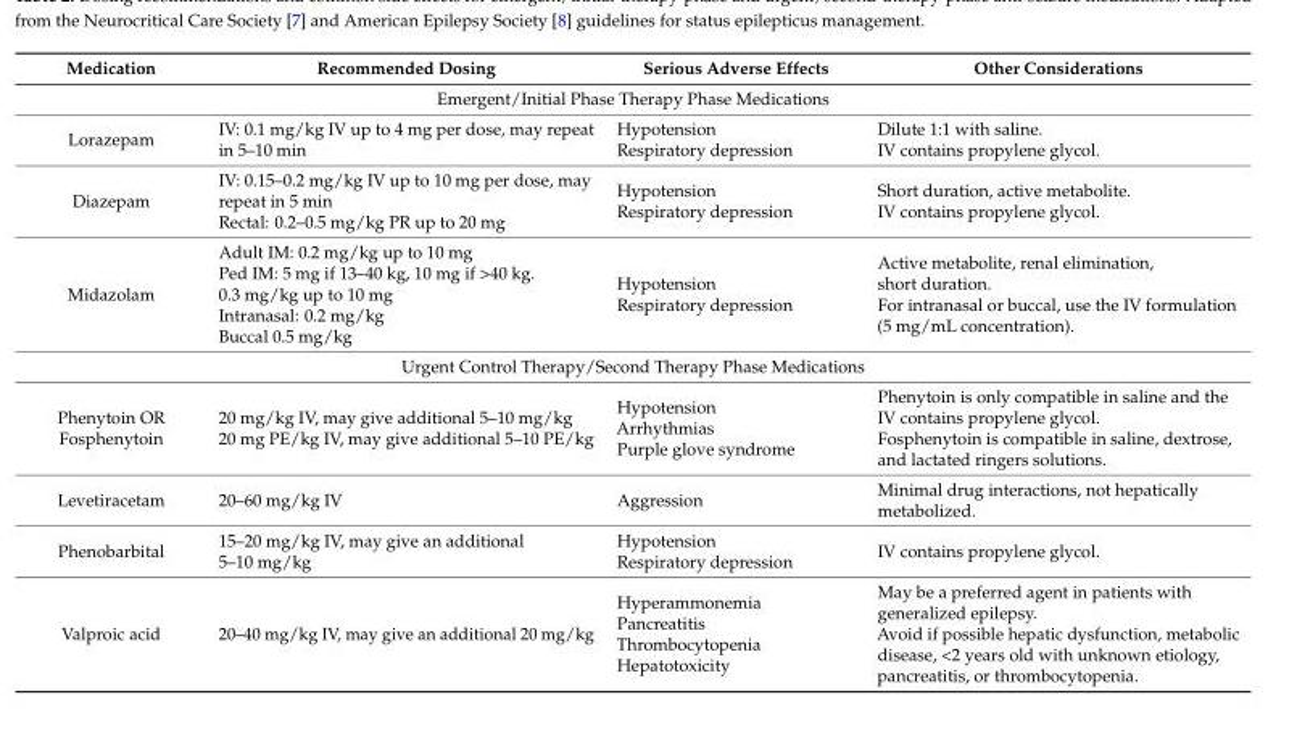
<table><thead><tr><td>Medication</td><td>Recommended Dosing</td><td>Serious Adverse Effects</td><td>Other Considerations</td></tr></thead><tbody><tr><td colspan="4">Emergent/Initial Phase Therapy Phase Medications</td></tr><tr><td>Lorazepam</td><td>IV: 0.1 mg/kg IV up to 4 mg per dose, may repeat in 5–10 min</td><td>Hypotension Respiratory depression</td><td>Dilute 1:1 with saline. IV contains propylene glycol.</td></tr><tr><td>Diazepam</td><td>IV: 0.15–0.2 mg/kg IV up to 10 mg per dose, may repeat in 5 min Rectal: 0.2–0.5 mg/kg PR up to 20 mg</td><td>Hypotension Respiratory depression</td><td>Short duration, active metabolite. IV contains propylene glycol.</td></tr><tr><td>Midazolam</td><td>Adult IM: 0.2 mg/kg up to 10 mg Ped IM: 5 mg if 13–40 kg, 10 mg if &gt;40 kg. 0.3 mg/kg up to 10 mg Intranasal: 0.2 mg/kg Buccal 0.5 mg/kg</td><td>Hypotension Respiratory depression</td><td>Active metabolite, renal elimination, short duration. For intranasal or buccal, use the IV formulation (5 mg/mL concentration).</td></tr><tr><td colspan="4">Urgent Control Therapy/Second Therapy Phase Medications</td></tr><tr><td>Phenytoin OR Fosphenytoin</td><td>20 mg/kg IV, may give additional 5–10 mg/kg 20 mg PE/kg IV, may give additional 5–10 PE/kg</td><td>Hypotension Arrhythmias Purple glove syndrome</td><td>Phenytoin is only compatible in saline and the IV contains propylene glycol. Fosphenytoin is compatible in saline, dextrose, and lactated ringers solutions.</td></tr><tr><td>Levetiracetam</td><td>20–60 mg/kg IV</td><td>Aggression</td><td>Minimal drug interactions, not hepatically metabolized.</td></tr><tr><td>Phenobarbital</td><td>15–20 mg/kg IV, may give an additional 5–10 mg/kg</td><td>Hypotension Respiratory depression</td><td>IV contains propylene glycol.</td></tr><tr><td>Valproic acid</td><td>20–40 mg/kg IV, may give an additional 20 mg/kg</td><td>Hyperammonemia Pancreatitis Thrombocytopenia Hepatotoxicity</td><td>May be a preferred agent in patients with generalized epilepsy. Avoid if possible hepatic dysfunction, metabolic disease, &lt;2 years old with unknown etiology, pancreatitis, or thrombocytopenia.</td></tr></tbody></table>